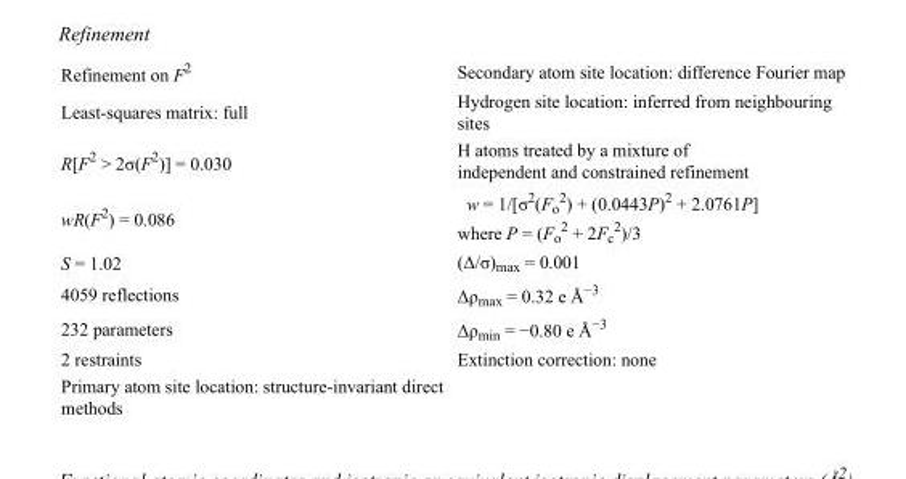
<table><tbody><tr><td>Refinement on F<sup>2</sup></td><td>Secondary atom site location: difference Fourier map</td></tr><tr><td>Least-squares matrix: full</td><td>Hydrogen site location: inferred from neighbouring sites</td></tr><tr><td>R[F<sup>2</sup> &gt; 2σ(F<sup>2</sup>)] = 0.030</td><td>H atoms treated by a mixture of independent and constrained refinement</td></tr><tr><td>wR(F<sup>2</sup>) = 0.086</td><td>w = 1/[σ<sup>2</sup>(F<sub>o</sub> <sup>2</sup>) + (0.0443P)<sup>2</sup> + 2.0761P] where P = (F<sub>o</sub> <sup>2</sup> + 2F<sub>c</sub> <sup>2</sup>)/3</td></tr><tr><td>S = 1.02</td><td>(Δ/σ)<sub>max</sub> = 0.001</td></tr><tr><td>4059 reflections</td><td>Δρ<sub>max</sub> = 0.32 e Å<sup>−3</sup></td></tr><tr><td>232 parameters</td><td>Δρ<sub>min</sub> = −0.80 e Å<sup>−3</sup></td></tr><tr><td>2 restraints</td><td>Extinction correction: none</td></tr><tr><td>Primary atom site location: structure-invariant direct methods</td><td></td></tr></tbody></table>